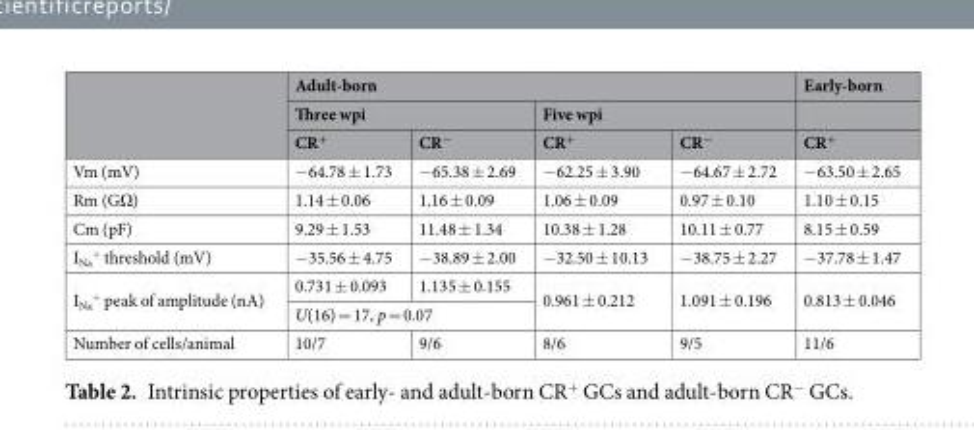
<table><thead><tr><td rowspan="3"></td><td colspan="4">Adult-born</td><td rowspan="3">Early-born CR<sup>+</sup></td></tr><tr><td colspan="2">Three wpi</td><td colspan="2">Five wpi</td></tr><tr><td>CR<sup>+</sup></td><td>CR<sup>−</sup></td><td>CR<sup>+</sup></td><td>CR<sup>−</sup></td></tr></thead><tbody><tr><td>Vm (mV)</td><td>−64.78 ± 1.73</td><td>−65.38 ± 2.69</td><td>−62.25 ± 3.90</td><td>−64.67 ± 2.72</td><td>−63.50 ± 2.65</td></tr><tr><td>Rm (GΩ)</td><td>1.14 ± 0.06</td><td>1.16 ± 0.09</td><td>1.06 ± 0.09</td><td>0.97 ± 0.10</td><td>1.10 ± 0.15</td></tr><tr><td>Cm (pF)</td><td>9.29 ± 1.53</td><td>11.48 ± 1.34</td><td>10.38 ± 1.28</td><td>10.11 ± 0.77</td><td>8.15 ± 0.59</td></tr><tr><td>I<sub>Na</sub> <sup>+</sup> threshold (mV)</td><td>−35.56 ± 4.75</td><td>−38.89 ± 2.00</td><td>−32.50 ± 10.13</td><td>−38.75 ± 2.27</td><td>−37.78 ± 1.47</td></tr><tr><td rowspan="2">I<sub>Na</sub> <sup>+</sup> peak of amplitude (nA)</td><td>0.731 ± 0.093</td><td>1.135 ± 0.155</td><td rowspan="2">0.961 ± 0.212</td><td rowspan="2">1.091 ± 0.196</td><td rowspan="2">0.813 ± 0.046</td></tr><tr><td colspan="2">U(16) = 17, p = 0.07</td></tr><tr><td>Number of cells/animal</td><td>10/7</td><td>9/6</td><td>8/6</td><td>9/5</td><td>11/6</td></tr></tbody></table>